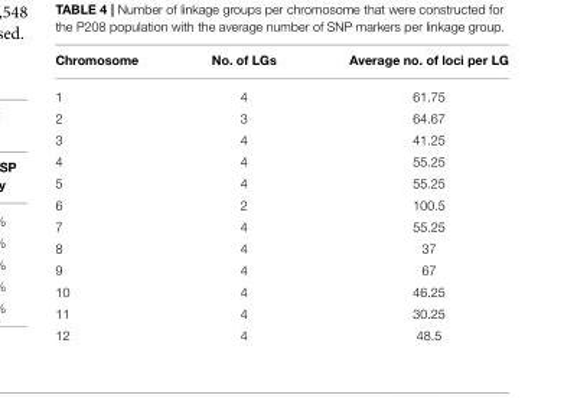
<table><thead><tr><td>Chromosome</td><td>No. of LGs</td><td>Average no. of loci per LG</td></tr></thead><tbody><tr><td>1</td><td>4</td><td>61.75</td></tr><tr><td>2</td><td>3</td><td>64.67</td></tr><tr><td>3</td><td>4</td><td>41.25</td></tr><tr><td>4</td><td>4</td><td>55.25</td></tr><tr><td>5</td><td>4</td><td>55.25</td></tr><tr><td>6</td><td>2</td><td>100.5</td></tr><tr><td>7</td><td>4</td><td>55.25</td></tr><tr><td>8</td><td>4</td><td>37</td></tr><tr><td>9</td><td>4</td><td>67</td></tr><tr><td>10</td><td>4</td><td>46.25</td></tr><tr><td>11</td><td>4</td><td>30.25</td></tr><tr><td>12</td><td>4</td><td>48.5</td></tr></tbody></table>